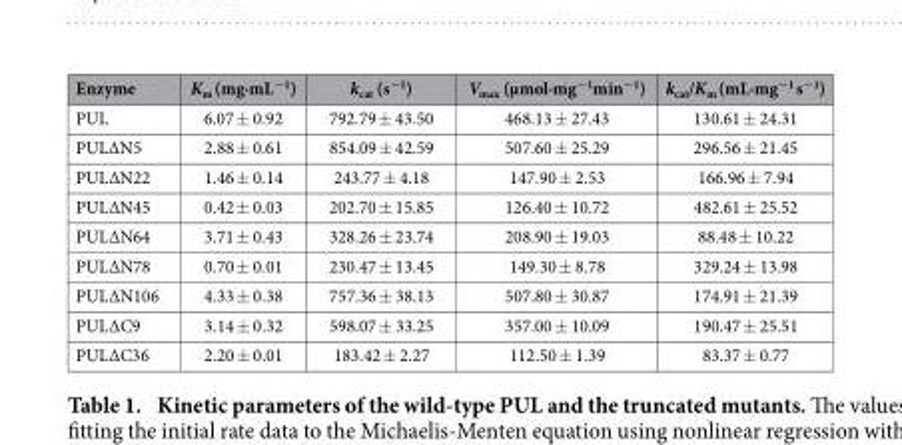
<table><thead><tr><td>Enzyme</td><td>K<sub>m</sub> (mg·mL<sup>−1</sup>)</td><td>k<sub>cat</sub> (s<sup>−1</sup>)</td><td>V<sub>max</sub> (μmol·mg<sup>−1</sup>min<sup>−1</sup>)</td><td>k<sub>cat</sub>/K<sub>m</sub> (mL·mg<sup>−1</sup> s<sup>−1</sup>)</td></tr></thead><tbody><tr><td>PUL</td><td>6.07 ± 0.92</td><td>792.79 ± 43.50</td><td>468.13 ± 27.43</td><td>130.61 ± 24.31</td></tr><tr><td>PULΔN5</td><td>2.88 ± 0.61</td><td>854.09 ± 42.59</td><td>507.60 ± 25.29</td><td>296.56 ± 21.45</td></tr><tr><td>PULΔN22</td><td>1.46 ± 0.14</td><td>243.77 ± 4.18</td><td>147.90 ± 2.53</td><td>166.96 ± 7.94</td></tr><tr><td>PULΔN45</td><td>0.42 ± 0.03</td><td>202.70 ± 15.85</td><td>126.40 ± 10.72</td><td>482.61 ± 25.52</td></tr><tr><td>PULΔN64</td><td>3.71 ± 0.43</td><td>328.26 ± 23.74</td><td>208.90 ± 19.03</td><td>88.48 ± 10.22</td></tr><tr><td>PULΔN78</td><td>0.70 ± 0.01</td><td>230.47 ± 13.45</td><td>149.30 ± 8.78</td><td>329.24 ± 13.98</td></tr><tr><td>PULΔN106</td><td>4.33 ± 0.38</td><td>757.36 ± 38.13</td><td>507.80 ± 30.87</td><td>174.91 ± 21.39</td></tr><tr><td>PULΔC9</td><td>3.14 ± 0.32</td><td>598.07 ± 33.25</td><td>357.00 ± 10.09</td><td>190.47 ± 25.51</td></tr><tr><td>PULΔC36</td><td>2.20 ± 0.01</td><td>183.42 ± 2.27</td><td>112.50 ± 1.39</td><td>83.37 ± 0.77</td></tr></tbody></table>